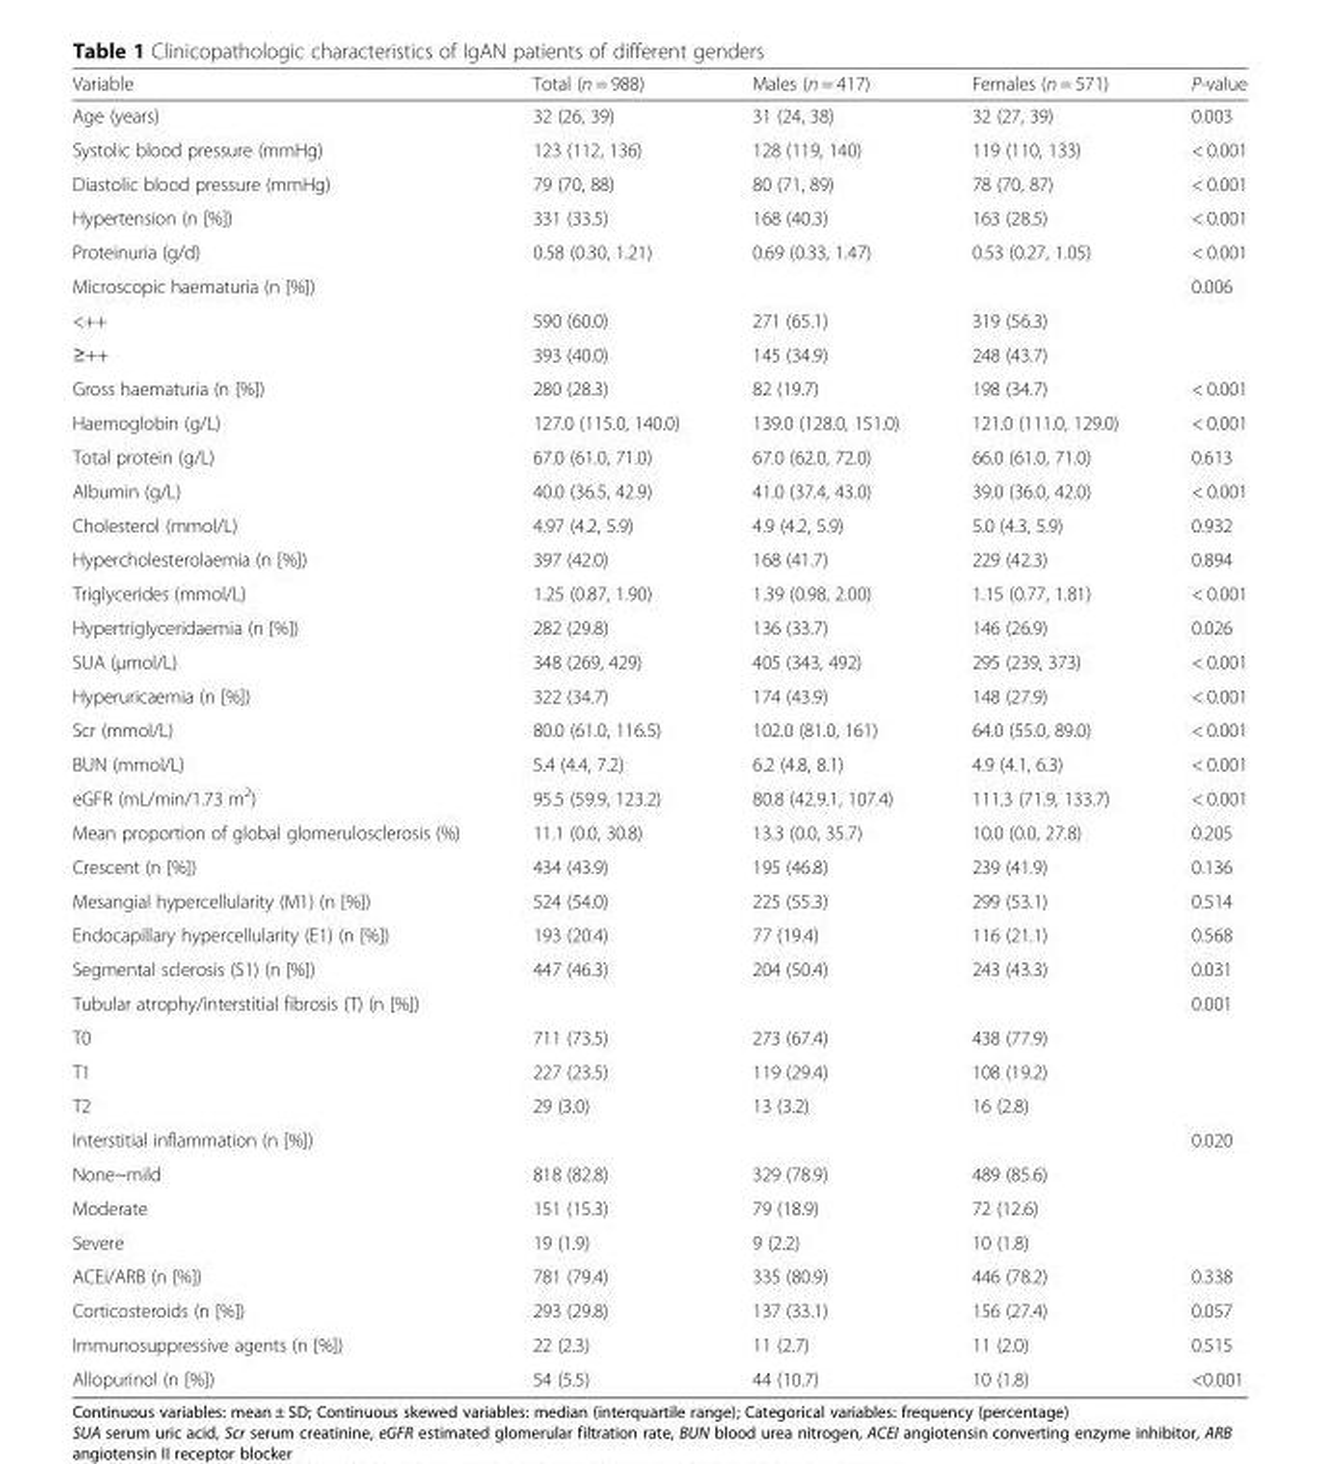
<table><thead><tr><td>Variable</td><td>Total (n = 988)</td><td>Males (n = 417)</td><td>Females (n = 571)</td><td>P-value</td></tr></thead><tbody><tr><td>Age (years)</td><td>32 (26, 39)</td><td>31 (24, 38)</td><td>32 (27, 39)</td><td>0.003</td></tr><tr><td>Systolic blood pressure (mmHg)</td><td>123 (112, 136)</td><td>128 (119, 140)</td><td>119 (110, 133)</td><td>&lt; 0.001</td></tr><tr><td>Diastolic blood pressure (mmHg)</td><td>79 (70, 88)</td><td>80 (71, 89)</td><td>78 (70, 87)</td><td>&lt; 0.001</td></tr><tr><td>Hypertension (n [%])</td><td>331 (33.5)</td><td>168 (40.3)</td><td>163 (28.5)</td><td>&lt; 0.001</td></tr><tr><td>Proteinuria (g/d)</td><td>0.58 (0.30, 1.21)</td><td>0.69 (0.33, 1.47)</td><td>0.53 (0.27, 1.05)</td><td>&lt; 0.001</td></tr><tr><td>Microscopic haematuria (n [%])</td><td></td><td></td><td></td><td>0.006</td></tr><tr><td>&lt;++</td><td>590 (60.0)</td><td>271 (65.1)</td><td>319 (56.3)</td><td></td></tr><tr><td>≥++</td><td>393 (40.0)</td><td>145 (34.9)</td><td>248 (43.7)</td><td></td></tr><tr><td>Gross haematuria (n [%])</td><td>280 (28.3)</td><td>82 (19.7)</td><td>198 (34.7)</td><td>&lt; 0.001</td></tr><tr><td>Haemoglobin (g/L)</td><td>127.0 (115.0, 140.0)</td><td>139.0 (128.0, 151.0)</td><td>121.0 (111.0, 129.0)</td><td>&lt; 0.001</td></tr><tr><td>Total protein (g/L)</td><td>67.0 (61.0, 71.0)</td><td>67.0 (62.0, 72.0)</td><td>66.0 (61.0, 71.0)</td><td>0.613</td></tr><tr><td>Albumin (g/L)</td><td>40.0 (36.5, 42.9)</td><td>41.0 (37.4, 43.0)</td><td>39.0 (36.0, 42.0)</td><td>&lt; 0.001</td></tr><tr><td>Cholesterol (mmol/L)</td><td>4.97 (4.2, 5.9)</td><td>4.9 (4.2, 5.9)</td><td>5.0 (4.3, 5.9)</td><td>0.932</td></tr><tr><td>Hypercholesterolaemia (n [%])</td><td>397 (42.0)</td><td>168 (41.7)</td><td>229 (42.3)</td><td>0.894</td></tr><tr><td>Triglycerides (mmol/L)</td><td>1.25 (0.87, 1.90)</td><td>1.39 (0.98, 2.00)</td><td>1.15 (0.77, 1.81)</td><td>&lt; 0.001</td></tr><tr><td>Hypertriglyceridaemia (n [%])</td><td>282 (29.8)</td><td>136 (33.7)</td><td>146 (26.9)</td><td>0.026</td></tr><tr><td>SUA (μmol/L)</td><td>348 (269, 429)</td><td>405 (343, 492)</td><td>295 (239, 373)</td><td>&lt; 0.001</td></tr><tr><td>Hyperuricaemia (n [%])</td><td>322 (34.7)</td><td>174 (43.9)</td><td>148 (27.9)</td><td>&lt; 0.001</td></tr><tr><td>Scr (mmol/L)</td><td>80.0 (61.0, 116.5)</td><td>102.0 (81.0, 161)</td><td>64.0 (55.0, 89.0)</td><td>&lt; 0.001</td></tr><tr><td>BUN (mmol/L)</td><td>5.4 (4.4, 7.2)</td><td>6.2 (4.8, 8.1)</td><td>4.9 (4.1, 6.3)</td><td>&lt; 0.001</td></tr><tr><td>eGFR (mL/min/1.73 m<sup>2</sup>)</td><td>95.5 (59.9, 123.2)</td><td>80.8 (42.9.1, 107.4)</td><td>111.3 (71.9, 133.7)</td><td>&lt; 0.001</td></tr><tr><td>Mean proportion of global glomerulosclerosis (%)</td><td>11.1 (0.0, 30.8)</td><td>13.3 (0.0, 35.7)</td><td>10.0 (0.0, 27.8)</td><td>0.205</td></tr><tr><td>Crescent (n [%])</td><td>434 (43.9)</td><td>195 (46.8)</td><td>239 (41.9)</td><td>0.136</td></tr><tr><td>Mesangial hypercellularity (M1) (n [%])</td><td>524 (54.0)</td><td>225 (55.3)</td><td>299 (53.1)</td><td>0.514</td></tr><tr><td>Endocapillary hypercellularity (E1) (n [%])</td><td>193 (20.4)</td><td>77 (19.4)</td><td>116 (21.1)</td><td>0.568</td></tr><tr><td>Segmental sclerosis (S1) (n [%])</td><td>447 (46.3)</td><td>204 (50.4)</td><td>243 (43.3)</td><td>0.031</td></tr><tr><td>Tubular atrophy/interstitial fibrosis (T) (n [%])</td><td></td><td></td><td></td><td>0.001</td></tr><tr><td>T0</td><td>711 (73.5)</td><td>273 (67.4)</td><td>438 (77.9)</td><td></td></tr><tr><td>T1</td><td>227 (23.5)</td><td>119 (29.4)</td><td>108 (19.2)</td><td></td></tr><tr><td>T2</td><td>29 (3.0)</td><td>13 (3.2)</td><td>16 (2.8)</td><td></td></tr><tr><td>Interstitial inflammation (n [%])</td><td></td><td></td><td></td><td>0.020</td></tr><tr><td>None~mild</td><td>818 (82.8)</td><td>329 (78.9)</td><td>489 (85.6)</td><td></td></tr><tr><td>Moderate</td><td>151 (15.3)</td><td>79 (18.9)</td><td>72 (12.6)</td><td></td></tr><tr><td>Severe</td><td>19 (1.9)</td><td>9 (2.2)</td><td>10 (1.8)</td><td></td></tr><tr><td>ACEi/ARB (n [%])</td><td>781 (79.4)</td><td>335 (80.9)</td><td>446 (78.2)</td><td>0.338</td></tr><tr><td>Corticosteroids (n [%])</td><td>293 (29.8)</td><td>137 (33.1)</td><td>156 (27.4)</td><td>0.057</td></tr><tr><td>Immunosuppressive agents (n [%])</td><td>22 (2.3)</td><td>11 (2.7)</td><td>11 (2.0)</td><td>0.515</td></tr><tr><td>Allopurinol (n [%])</td><td>54 (5.5)</td><td>44 (10.7)</td><td>10 (1.8)</td><td>&lt;0.001</td></tr></tbody></table>